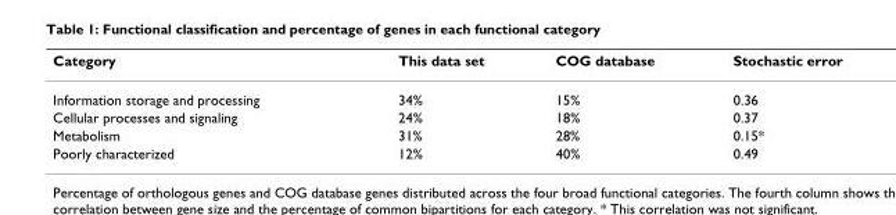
<table><thead><tr><td>Category</td><td>This data set</td><td>COG database</td><td>Stochastic error</td></tr></thead><tbody><tr><td>Information storage and processing</td><td>34%</td><td>15%</td><td>0.36</td></tr><tr><td>Cellular processes and signaling</td><td>24%</td><td>18%</td><td>0.37</td></tr><tr><td>Metabolism</td><td>31%</td><td>28%</td><td>0.15*</td></tr><tr><td>Poorly characterized</td><td>12%</td><td>40%</td><td>0.49</td></tr></tbody></table>